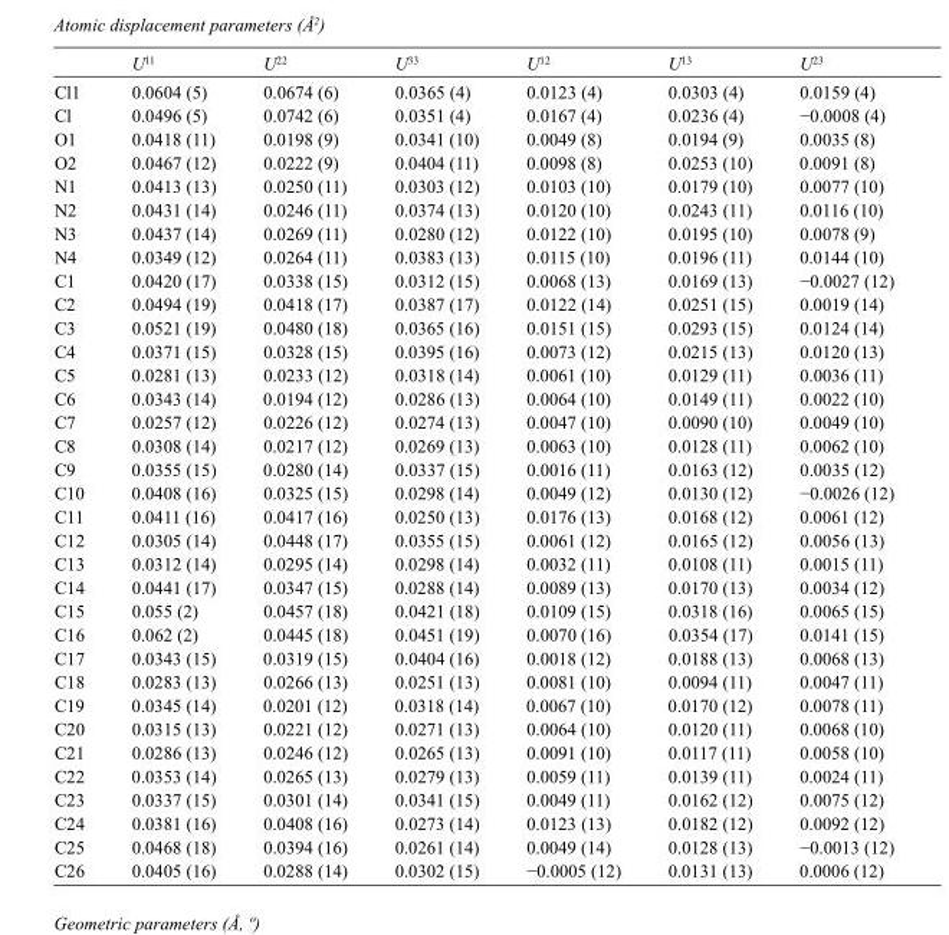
<table><thead><tr><td></td><td>U<sup>11</sup></td><td>U<sup>22</sup></td><td>U<sup>33</sup></td><td>U<sup>12</sup></td><td>U<sup>13</sup></td><td>U<sup>23</sup></td></tr></thead><tbody><tr><td>Cl1</td><td>0.0604 (5)</td><td>0.0674 (6)</td><td>0.0365 (4)</td><td>0.0123 (4)</td><td>0.0303 (4)</td><td>0.0159 (4)</td></tr><tr><td>Cl</td><td>0.0496 (5)</td><td>0.0742 (6)</td><td>0.0351 (4)</td><td>0.0167 (4)</td><td>0.0236 (4)</td><td>−0.0008 (4)</td></tr><tr><td>O1</td><td>0.0418 (11)</td><td>0.0198 (9)</td><td>0.0341 (10)</td><td>0.0049 (8)</td><td>0.0194 (9)</td><td>0.0035 (8)</td></tr><tr><td>O2</td><td>0.0467 (12)</td><td>0.0222 (9)</td><td>0.0404 (11)</td><td>0.0098 (8)</td><td>0.0253 (10)</td><td>0.0091 (8)</td></tr><tr><td>N1</td><td>0.0413 (13)</td><td>0.0250 (11)</td><td>0.0303 (12)</td><td>0.0103 (10)</td><td>0.0179 (10)</td><td>0.0077 (10)</td></tr><tr><td>N2</td><td>0.0431 (14)</td><td>0.0246 (11)</td><td>0.0374 (13)</td><td>0.0120 (10)</td><td>0.0243 (11)</td><td>0.0116 (10)</td></tr><tr><td>N3</td><td>0.0437 (14)</td><td>0.0269 (11)</td><td>0.0280 (12)</td><td>0.0122 (10)</td><td>0.0195 (10)</td><td>0.0078 (9)</td></tr><tr><td>N4</td><td>0.0349 (12)</td><td>0.0264 (11)</td><td>0.0383 (13)</td><td>0.0115 (10)</td><td>0.0196 (11)</td><td>0.0144 (10)</td></tr><tr><td>C1</td><td>0.0420 (17)</td><td>0.0338 (15)</td><td>0.0312 (15)</td><td>0.0068 (13)</td><td>0.0169 (13)</td><td>−0.0027 (12)</td></tr><tr><td>C2</td><td>0.0494 (19)</td><td>0.0418 (17)</td><td>0.0387 (17)</td><td>0.0122 (14)</td><td>0.0251 (15)</td><td>0.0019 (14)</td></tr><tr><td>C3</td><td>0.0521 (19)</td><td>0.0480 (18)</td><td>0.0365 (16)</td><td>0.0151 (15)</td><td>0.0293 (15)</td><td>0.0124 (14)</td></tr><tr><td>C4</td><td>0.0371 (15)</td><td>0.0328 (15)</td><td>0.0395 (16)</td><td>0.0073 (12)</td><td>0.0215 (13)</td><td>0.0120 (13)</td></tr><tr><td>C5</td><td>0.0281 (13)</td><td>0.0233 (12)</td><td>0.0318 (14)</td><td>0.0061 (10)</td><td>0.0129 (11)</td><td>0.0036 (11)</td></tr><tr><td>C6</td><td>0.0343 (14)</td><td>0.0194 (12)</td><td>0.0286 (13)</td><td>0.0064 (10)</td><td>0.0149 (11)</td><td>0.0022 (10)</td></tr><tr><td>C7</td><td>0.0257 (12)</td><td>0.0226 (12)</td><td>0.0274 (13)</td><td>0.0047 (10)</td><td>0.0090 (10)</td><td>0.0049 (10)</td></tr><tr><td>C8</td><td>0.0308 (14)</td><td>0.0217 (12)</td><td>0.0269 (13)</td><td>0.0063 (10)</td><td>0.0128 (11)</td><td>0.0062 (10)</td></tr><tr><td>C9</td><td>0.0355 (15)</td><td>0.0280 (14)</td><td>0.0337 (15)</td><td>0.0016 (11)</td><td>0.0163 (12)</td><td>0.0035 (12)</td></tr><tr><td>C10</td><td>0.0408 (16)</td><td>0.0325 (15)</td><td>0.0298 (14)</td><td>0.0049 (12)</td><td>0.0130 (12)</td><td>−0.0026 (12)</td></tr><tr><td>C11</td><td>0.0411 (16)</td><td>0.0417 (16)</td><td>0.0250 (13)</td><td>0.0176 (13)</td><td>0.0168 (12)</td><td>0.0061 (12)</td></tr><tr><td>C12</td><td>0.0305 (14)</td><td>0.0448 (17)</td><td>0.0355 (15)</td><td>0.0061 (12)</td><td>0.0165 (12)</td><td>0.0056 (13)</td></tr><tr><td>C13</td><td>0.0312 (14)</td><td>0.0295 (14)</td><td>0.0298 (14)</td><td>0.0032 (11)</td><td>0.0108 (11)</td><td>0.0015 (11)</td></tr><tr><td>C14</td><td>0.0441 (17)</td><td>0.0347 (15)</td><td>0.0288 (14)</td><td>0.0089 (13)</td><td>0.0170 (13)</td><td>0.0034 (12)</td></tr><tr><td>C15</td><td>0.055 (2)</td><td>0.0457 (18)</td><td>0.0421 (18)</td><td>0.0109 (15)</td><td>0.0318 (16)</td><td>0.0065 (15)</td></tr><tr><td>C16</td><td>0.062 (2)</td><td>0.0445 (18)</td><td>0.0451 (19)</td><td>0.0070 (16)</td><td>0.0354 (17)</td><td>0.0141 (15)</td></tr><tr><td>C17</td><td>0.0343 (15)</td><td>0.0319 (15)</td><td>0.0404 (16)</td><td>0.0018 (12)</td><td>0.0188 (13)</td><td>0.0068 (13)</td></tr><tr><td>C18</td><td>0.0283 (13)</td><td>0.0266 (13)</td><td>0.0251 (13)</td><td>0.0081 (10)</td><td>0.0094 (11)</td><td>0.0047 (11)</td></tr><tr><td>C19</td><td>0.0345 (14)</td><td>0.0201 (12)</td><td>0.0318 (14)</td><td>0.0067 (10)</td><td>0.0170 (12)</td><td>0.0078 (11)</td></tr><tr><td>C20</td><td>0.0315 (13)</td><td>0.0221 (12)</td><td>0.0271 (13)</td><td>0.0064 (10)</td><td>0.0120 (11)</td><td>0.0068 (10)</td></tr><tr><td>C21</td><td>0.0286 (13)</td><td>0.0246 (12)</td><td>0.0265 (13)</td><td>0.0091 (10)</td><td>0.0117 (11)</td><td>0.0058 (10)</td></tr><tr><td>C22</td><td>0.0353 (14)</td><td>0.0265 (13)</td><td>0.0279 (13)</td><td>0.0059 (11)</td><td>0.0139 (11)</td><td>0.0024 (11)</td></tr><tr><td>C23</td><td>0.0337 (15)</td><td>0.0301 (14)</td><td>0.0341 (15)</td><td>0.0049 (11)</td><td>0.0162 (12)</td><td>0.0075 (12)</td></tr><tr><td>C24</td><td>0.0381 (16)</td><td>0.0408 (16)</td><td>0.0273 (14)</td><td>0.0123 (13)</td><td>0.0182 (12)</td><td>0.0092 (12)</td></tr><tr><td>C25</td><td>0.0468 (18)</td><td>0.0394 (16)</td><td>0.0261 (14)</td><td>0.0049 (14)</td><td>0.0128 (13)</td><td>−0.0013 (12)</td></tr><tr><td>C26</td><td>0.0405 (16)</td><td>0.0288 (14)</td><td>0.0302 (15)</td><td>−0.0005 (12)</td><td>0.0131 (13)</td><td>0.0006 (12)</td></tr></tbody></table>